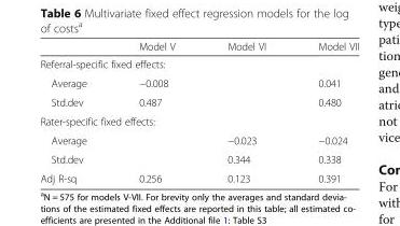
<table><thead><tr><td></td><td>Model V</td><td>Model VI</td><td>Model VII</td></tr></thead><tbody><tr><td colspan="4">Referral-specific fixed effects:</td></tr><tr><td>Average</td><td>−0.008</td><td></td><td>0.041</td></tr><tr><td>Std.dev</td><td>0.487</td><td></td><td>0.480</td></tr><tr><td colspan="4">Rater-specific fixed effects:</td></tr><tr><td>Average</td><td></td><td>−0.023</td><td>−0.024</td></tr><tr><td>Std.dev</td><td></td><td>0.344</td><td>0.338</td></tr><tr><td>Adj R-sq</td><td>0.256</td><td>0.123</td><td>0.391</td></tr></tbody></table>